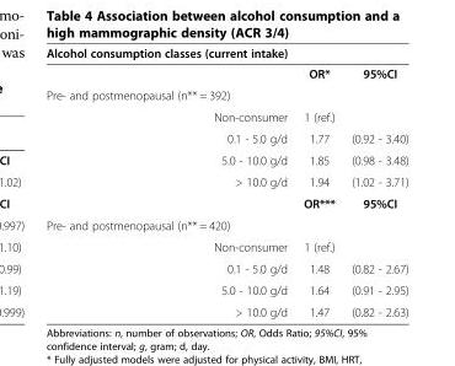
<table><thead><tr><td>Alcohol consumption classes (current intake)</td><td></td><td></td></tr></thead><tbody><tr><td></td><td>OR*</td><td>95%CI</td></tr><tr><td colspan="3">Pre- and postmenopausal (n** = 392)</td></tr><tr><td>Non-consumer</td><td>1 (ref.)</td><td></td></tr><tr><td>0.1 - 5.0 g/d</td><td>1.77</td><td>(0.92 - 3.40)</td></tr><tr><td>5.0 - 10.0 g/d</td><td>1.85</td><td>(0.98 - 3.48)</td></tr><tr><td rowspan="2">&gt; 10.0 g/d</td><td>1.94</td><td>(1.02 - 3.71)</td></tr><tr><td>OR***</td><td>95%CI</td></tr><tr><td colspan="3">Pre- and postmenopausal (n** = 420)</td></tr><tr><td>Non-consumer</td><td>1 (ref.)</td><td></td></tr><tr><td>0.1 - 5.0 g/d</td><td>1.48</td><td>(0.82 - 2.67)</td></tr><tr><td>5.0 - 10.0 g/d</td><td>1.64</td><td>(0.91 - 2.95)</td></tr><tr><td>&gt; 10.0 g/d</td><td>1.47</td><td>(0.82 - 2.63)</td></tr></tbody></table>